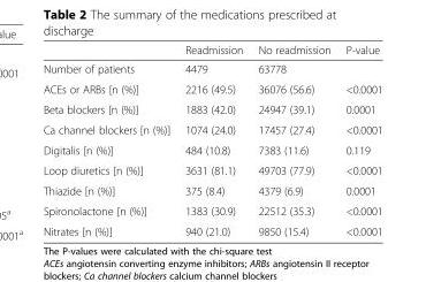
<table><thead><tr><td></td><td>Readmission</td><td>No readmission</td><td>P-value</td></tr></thead><tbody><tr><td>Number of patients</td><td>4479</td><td>63778</td><td></td></tr><tr><td>ACEs or ARBs [n (%)]</td><td>2216 (49.5)</td><td>36076 (56.6)</td><td>&lt;0.0001</td></tr><tr><td>Beta blockers [n (%)]</td><td>1883 (42.0)</td><td>24947 (39.1)</td><td>0.0001</td></tr><tr><td>Ca channel blockers [n (%)]</td><td>1074 (24.0)</td><td>17457 (27.4)</td><td>&lt;0.0001</td></tr><tr><td>Digitalis [n (%)]</td><td>484 (10.8)</td><td>7383 (11.6)</td><td>0.119</td></tr><tr><td>Loop diuretics [n (%)]</td><td>3631 (81.1)</td><td>49703 (77.9)</td><td>&lt;0.0001</td></tr><tr><td>Thiazide [n (%)]</td><td>375 (8.4)</td><td>4379 (6.9)</td><td>0.0001</td></tr><tr><td>Spironolactone [n (%)]</td><td>1383 (30.9)</td><td>22512 (35.3)</td><td>&lt;0.0001</td></tr><tr><td>Nitrates [n (%)]</td><td>940 (21.0)</td><td>9850 (15.4)</td><td>&lt;0.0001</td></tr></tbody></table>